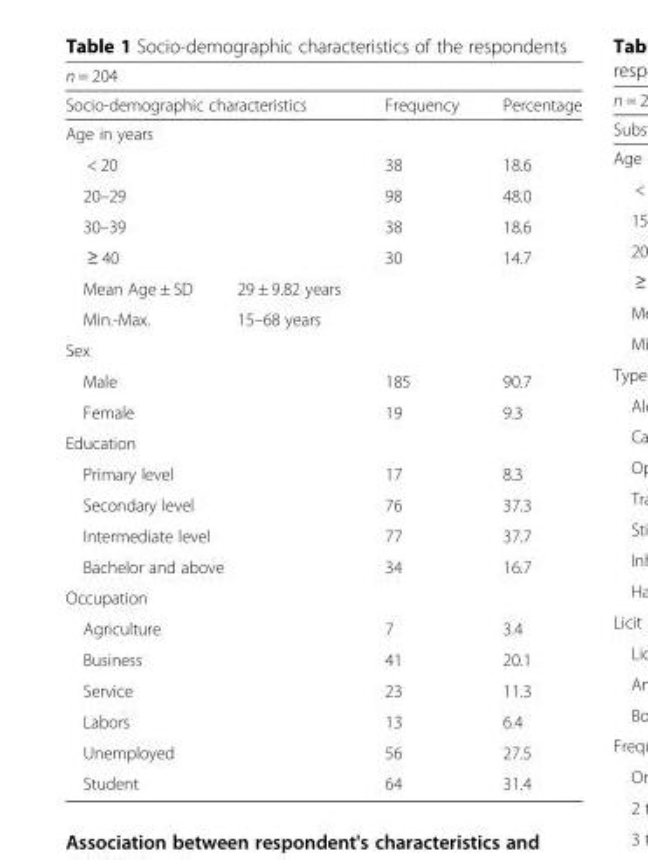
<table><thead><tr><td colspan="4">n = 204</td></tr><tr><td colspan="2">Socio-demographic characteristics</td><td>Frequency</td><td>Percentage</td></tr></thead><tbody><tr><td colspan="4">Age in years</td></tr><tr><td colspan="2">&lt; 20</td><td>38</td><td>18.6</td></tr><tr><td colspan="2">20–29</td><td>98</td><td>48.0</td></tr><tr><td colspan="2">30–39</td><td>38</td><td>18.6</td></tr><tr><td colspan="2">≥ 40</td><td>30</td><td>14.7</td></tr><tr><td>Mean Age ± SD</td><td>29 ± 9.82 years</td><td></td><td></td></tr><tr><td>Min.-Max.</td><td>15–68 years</td><td></td><td></td></tr><tr><td colspan="4">Sex</td></tr><tr><td colspan="2">Male</td><td>185</td><td>90.7</td></tr><tr><td colspan="2">Female</td><td>19</td><td>9.3</td></tr><tr><td colspan="4">Education</td></tr><tr><td colspan="2">Primary level</td><td>17</td><td>8.3</td></tr><tr><td colspan="2">Secondary level</td><td>76</td><td>37.3</td></tr><tr><td colspan="2">Intermediate level</td><td>77</td><td>37.7</td></tr><tr><td colspan="2">Bachelor and above</td><td>34</td><td>16.7</td></tr><tr><td colspan="4">Occupation</td></tr><tr><td colspan="2">Agriculture</td><td>7</td><td>3.4</td></tr><tr><td colspan="2">Business</td><td>41</td><td>20.1</td></tr><tr><td colspan="2">Service</td><td>23</td><td>11.3</td></tr><tr><td colspan="2">Labors</td><td>13</td><td>6.4</td></tr><tr><td colspan="2">Unemployed</td><td>56</td><td>27.5</td></tr><tr><td colspan="2">Student</td><td>64</td><td>31.4</td></tr></tbody></table>